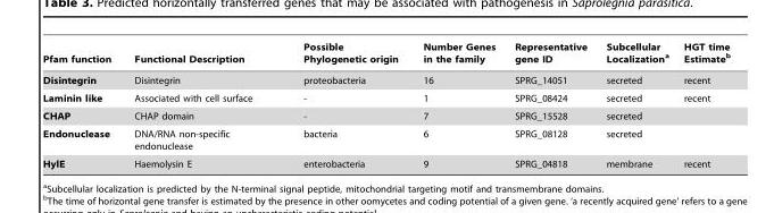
<table><thead><tr><td>Pfam function</td><td>Functional Description</td><td>Possible Phylogenetic origin</td><td>Number Genes in the family</td><td>Representative gene ID</td><td>Subcellular Localization<sup>a</sup></td><td>HGT time Estimate<sup>b</sup></td></tr></thead><tbody><tr><td>Disintegrin</td><td>Disintegrin</td><td>proteobacteria</td><td>16</td><td>SPRG_14051</td><td>secreted</td><td>recent</td></tr><tr><td>Laminin like</td><td>Associated with cell surface</td><td>-</td><td>1</td><td>SPRG_08424</td><td>secreted</td><td>recent</td></tr><tr><td>CHAP</td><td>CHAP domain</td><td>-</td><td>7</td><td>SPRG_15528</td><td>secreted</td><td></td></tr><tr><td>Endonuclease</td><td>DNA/RNA non-specific endonuclease</td><td>bacteria</td><td>6</td><td>SPRG_08128</td><td>secreted</td><td></td></tr><tr><td>HylE</td><td>Haemolysin E</td><td>enterobacteria</td><td>9</td><td>SPRG_04818</td><td>membrane</td><td>recent</td></tr></tbody></table>